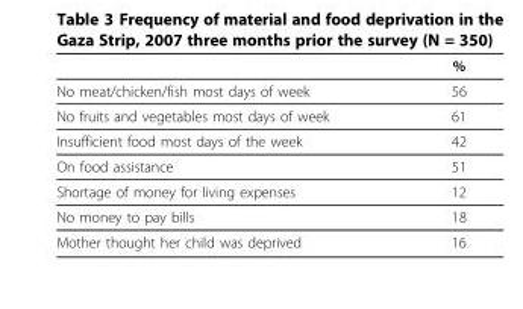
<table><thead><tr><td></td><td>%</td></tr></thead><tbody><tr><td>No meat/chicken/fish most days of week</td><td>56</td></tr><tr><td>No fruits and vegetables most days of week</td><td>61</td></tr><tr><td>Insufficient food most days of the week</td><td>42</td></tr><tr><td>On food assistance</td><td>51</td></tr><tr><td>Shortage of money for living expenses</td><td>12</td></tr><tr><td>No money to pay bills</td><td>18</td></tr><tr><td>Mother thought her child was deprived</td><td>16</td></tr></tbody></table>